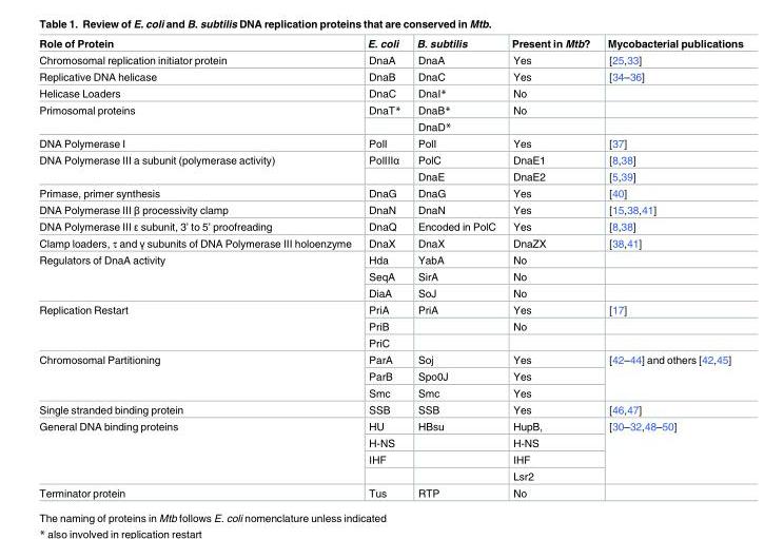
<table><thead><tr><td>Role of Protein</td><td>E. coli</td><td>B. subtilis</td><td>Present in Mtb?</td><td>Mycobacterial publications</td></tr></thead><tbody><tr><td>Chromosomal replication initiator protein</td><td>DnaA</td><td>DnaA</td><td>Yes</td><td>[25,33]</td></tr><tr><td>Replicative DNA helicase</td><td>DnaB</td><td>DnaC</td><td>Yes</td><td>[34–36]</td></tr><tr><td>Helicase Loaders</td><td>DnaC</td><td>DnaI*</td><td>No</td><td></td></tr><tr><td rowspan="2">Primosomal proteins</td><td>DnaT*</td><td>DnaB*</td><td>No</td><td></td></tr><tr><td></td><td>DnaD*</td><td></td><td></td></tr><tr><td>DNA Polymerase I</td><td>PolI</td><td>PolI</td><td>Yes</td><td>[37]</td></tr><tr><td rowspan="2">DNA Polymerase III a subunit (polymerase activity)</td><td>PolIIIα</td><td>PolC</td><td>DnaE1</td><td>[8,38]</td></tr><tr><td></td><td>DnaE</td><td>DnaE2</td><td>[5,39]</td></tr><tr><td>Primase, primer synthesis</td><td>DnaG</td><td>DnaG</td><td>Yes</td><td>[40]</td></tr><tr><td>DNA Polymerase III β processivity clamp</td><td>DnaN</td><td>DnaN</td><td>Yes</td><td>[15,38,41]</td></tr><tr><td>DNA Polymerase III ε subunit, 3’ to 5’ proofreading</td><td>DnaQ</td><td>Encoded in PolC</td><td>Yes</td><td>[8,38]</td></tr><tr><td>Clamp loaders, τ and γ subunits of DNA Polymerase III holoenzyme</td><td>DnaX</td><td>DnaX</td><td>DnaZX</td><td>[38,41]</td></tr><tr><td rowspan="3">Regulators of DnaA activity</td><td>Hda</td><td>YabA</td><td>No</td><td></td></tr><tr><td>SeqA</td><td>SirA</td><td>No</td><td></td></tr><tr><td>DiaA</td><td>SoJ</td><td>No</td><td></td></tr><tr><td rowspan="3">Replication Restart</td><td>PriA</td><td>PriA</td><td>Yes</td><td>[17]</td></tr><tr><td>PriB</td><td></td><td>No</td><td></td></tr><tr><td>PriC</td><td></td><td></td><td></td></tr><tr><td rowspan="3">Chromosomal Partitioning</td><td>ParA</td><td>Soj</td><td>Yes</td><td rowspan="3">[42–44] and others [42,45]</td></tr><tr><td>ParB</td><td>Spo0J</td><td>Yes</td></tr><tr><td>Smc</td><td>Smc</td><td>Yes</td></tr><tr><td>Single stranded binding protein</td><td>SSB</td><td>SSB</td><td>Yes</td><td>[46,47]</td></tr><tr><td rowspan="4">General DNA binding proteins</td><td>HU</td><td>HBsu</td><td>HupB,</td><td rowspan="4">[30–32,48–50]</td></tr><tr><td>H-NS</td><td></td><td>H-NS</td></tr><tr><td>IHF</td><td></td><td>IHF</td></tr><tr><td></td><td></td><td>Lsr2</td></tr><tr><td>Terminator protein</td><td>Tus</td><td>RTP</td><td>No</td><td></td></tr></tbody></table>